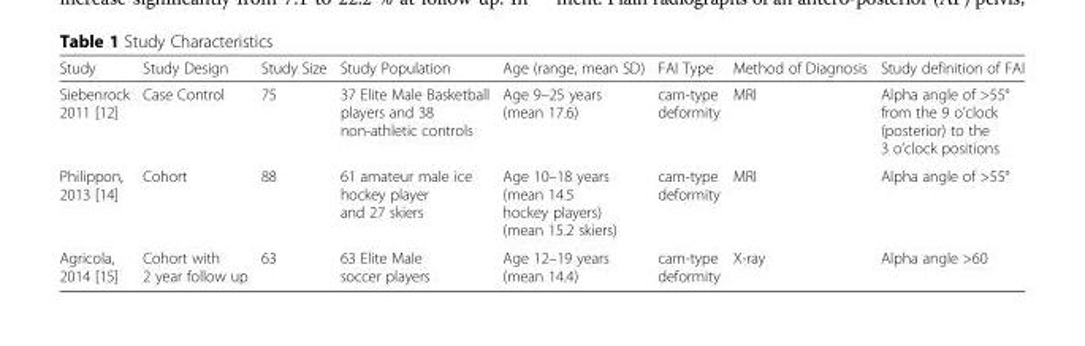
<table><thead><tr><td>Study</td><td>Study Design</td><td>Study Size</td><td>Study Population</td><td>Age (range, mean SD)</td><td>FAI Type</td><td>Method of Diagnosis</td><td>Study definition of FAI</td></tr></thead><tbody><tr><td>Siebenrock 2011 [12]</td><td>Case Control</td><td>75</td><td>37 Elite Male Basketball players and 38 non-athletic controls</td><td>Age 9–25 years (mean 17.6)</td><td>cam-type deformity</td><td>MRI</td><td>Alpha angle of &gt;55° from the 9 o’clock (posterior) to the 3 o’clock positions</td></tr><tr><td>Philippon, 2013 [14]</td><td>Cohort</td><td>88</td><td>61 amateur male ice hockey player and 27 skiers</td><td>Age 10–18 years (mean 14.5 hockey players) (mean 15.2 skiers)</td><td>cam-type deformity</td><td>MRI</td><td>Alpha angle of &gt;55°</td></tr><tr><td>Agricola, 2014 [15]</td><td>Cohort with 2 year follow up</td><td>63</td><td>63 Elite Male soccer players</td><td>Age 12–19 years (mean 14.4)</td><td>cam-type deformity</td><td>X-ray</td><td>Alpha angle &gt;60</td></tr></tbody></table>